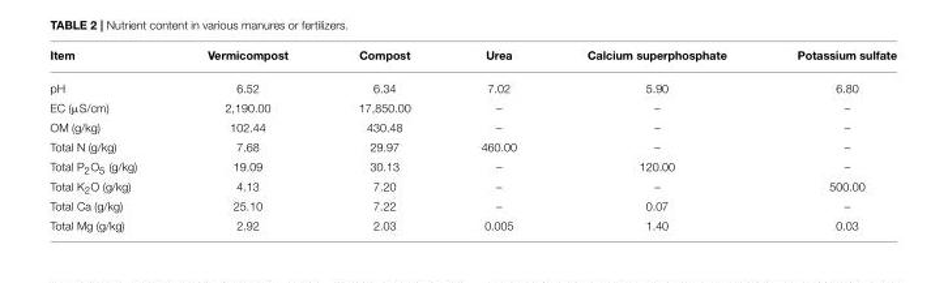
<table><thead><tr><td>Item</td><td>Vermicompost</td><td>Compost</td><td>Urea</td><td>Calcium superphosphate</td><td>Potassium sulfate</td></tr></thead><tbody><tr><td>pH</td><td>6.52</td><td>6.34</td><td>7.02</td><td>5.90</td><td>6.80</td></tr><tr><td>EC (µS/cm)</td><td>2,190.00</td><td>17,850.00</td><td>–</td><td>–</td><td>–</td></tr><tr><td>OM (g/kg)</td><td>102.44</td><td>430.48</td><td>–</td><td>–</td><td>–</td></tr><tr><td>Total N (g/kg)</td><td>7.68</td><td>29.97</td><td>460.00</td><td>–</td><td>–</td></tr><tr><td>Total P<sub>2</sub>O<sub>5</sub> (g/kg)</td><td>19.09</td><td>30.13</td><td>–</td><td>120.00</td><td>–</td></tr><tr><td>Total K<sub>2</sub>O (g/kg)</td><td>4.13</td><td>7.20</td><td>–</td><td>–</td><td>500.00</td></tr><tr><td>Total Ca (g/kg)</td><td>25.10</td><td>7.22</td><td>–</td><td>0.07</td><td>–</td></tr><tr><td>Total Mg (g/kg)</td><td>2.92</td><td>2.03</td><td>0.005</td><td>1.40</td><td>0.03</td></tr></tbody></table>